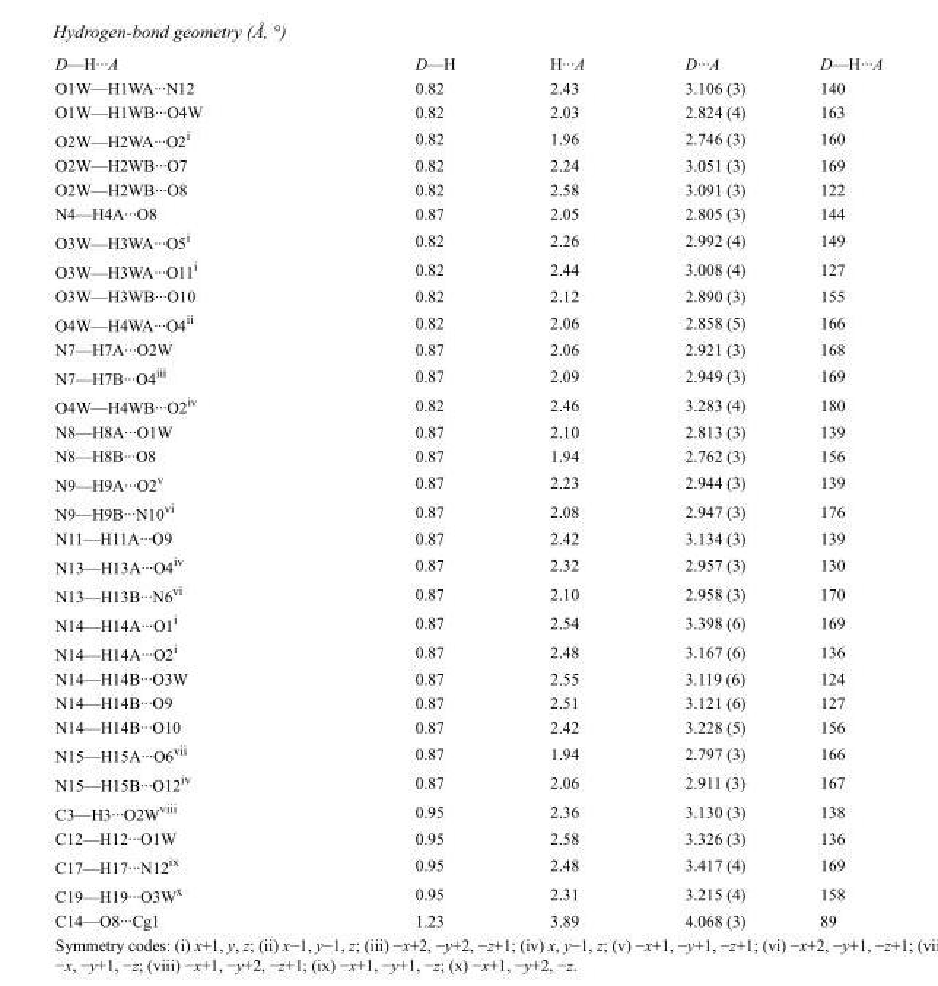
<table><tbody><tr><td>D—H···A</td><td>D—H</td><td>H···A</td><td>D···A</td><td>D—H···A</td></tr><tr><td>O1W—H1WA···N12</td><td>0.82</td><td>2.43</td><td>3.106 (3)</td><td>140</td></tr><tr><td>O1W—H1WB···O4W</td><td>0.82</td><td>2.03</td><td>2.824 (4)</td><td>163</td></tr><tr><td>O2W—H2WA···O2<sup>i</sup></td><td>0.82</td><td>1.96</td><td>2.746 (3)</td><td>160</td></tr><tr><td>O2W—H2WB···O7</td><td>0.82</td><td>2.24</td><td>3.051 (3)</td><td>169</td></tr><tr><td>O2W—H2WB···O8</td><td>0.82</td><td>2.58</td><td>3.091 (3)</td><td>122</td></tr><tr><td>N4—H4A···O8</td><td>0.87</td><td>2.05</td><td>2.805 (3)</td><td>144</td></tr><tr><td>O3W—H3WA···O5<sup>i</sup></td><td>0.82</td><td>2.26</td><td>2.992 (4)</td><td>149</td></tr><tr><td>O3W—H3WA···O11<sup>i</sup></td><td>0.82</td><td>2.44</td><td>3.008 (4)</td><td>127</td></tr><tr><td>O3W—H3WB···O10</td><td>0.82</td><td>2.12</td><td>2.890 (3)</td><td>155</td></tr><tr><td>O4W—H4WA···O4<sup>ii</sup></td><td>0.82</td><td>2.06</td><td>2.858 (5)</td><td>166</td></tr><tr><td>N7—H7A···O2W</td><td>0.87</td><td>2.06</td><td>2.921 (3)</td><td>168</td></tr><tr><td>N7—H7B···O4<sup>iii</sup></td><td>0.87</td><td>2.09</td><td>2.949 (3)</td><td>169</td></tr><tr><td>O4W—H4WB···O2<sup>iv</sup></td><td>0.82</td><td>2.46</td><td>3.283 (4)</td><td>180</td></tr><tr><td>N8—H8A···O1W</td><td>0.87</td><td>2.10</td><td>2.813 (3)</td><td>139</td></tr><tr><td>N8—H8B···O8</td><td>0.87</td><td>1.94</td><td>2.762 (3)</td><td>156</td></tr><tr><td>N9—H9A···O2<sup>v</sup></td><td>0.87</td><td>2.23</td><td>2.944 (3)</td><td>139</td></tr><tr><td>N9—H9B···N10<sup>vi</sup></td><td>0.87</td><td>2.08</td><td>2.947 (3)</td><td>176</td></tr><tr><td>N11—H11A···O9</td><td>0.87</td><td>2.42</td><td>3.134 (3)</td><td>139</td></tr><tr><td>N13—H13A···O4<sup>iv</sup></td><td>0.87</td><td>2.32</td><td>2.957 (3)</td><td>130</td></tr><tr><td>N13—H13B···N6<sup>vi</sup></td><td>0.87</td><td>2.10</td><td>2.958 (3)</td><td>170</td></tr><tr><td>N14—H14A···O1<sup>i</sup></td><td>0.87</td><td>2.54</td><td>3.398 (6)</td><td>169</td></tr><tr><td>N14—H14A···O2<sup>i</sup></td><td>0.87</td><td>2.48</td><td>3.167 (6)</td><td>136</td></tr><tr><td>N14—H14B···O3W</td><td>0.87</td><td>2.55</td><td>3.119 (6)</td><td>124</td></tr><tr><td>N14—H14B···O9</td><td>0.87</td><td>2.51</td><td>3.121 (6)</td><td>127</td></tr><tr><td>N14—H14B···O10</td><td>0.87</td><td>2.42</td><td>3.228 (5)</td><td>156</td></tr><tr><td>N15—H15A···O6<sup>vii</sup></td><td>0.87</td><td>1.94</td><td>2.797 (3)</td><td>166</td></tr><tr><td>N15—H15B···O12<sup>iv</sup></td><td>0.87</td><td>2.06</td><td>2.911 (3)</td><td>167</td></tr><tr><td>C3—H3···O2W<sup>viii</sup></td><td>0.95</td><td>2.36</td><td>3.130 (3)</td><td>138</td></tr><tr><td>C12—H12···O1W</td><td>0.95</td><td>2.58</td><td>3.326 (3)</td><td>136</td></tr><tr><td>C17—H17···N12<sup>ix</sup></td><td>0.95</td><td>2.48</td><td>3.417 (4)</td><td>169</td></tr><tr><td>C19—H19···O3W<sup>x</sup></td><td>0.95</td><td>2.31</td><td>3.215 (4)</td><td>158</td></tr><tr><td>C14—O8···Cg1</td><td>1.23</td><td>3.89</td><td>4.068 (3)</td><td>89</td></tr></tbody></table>